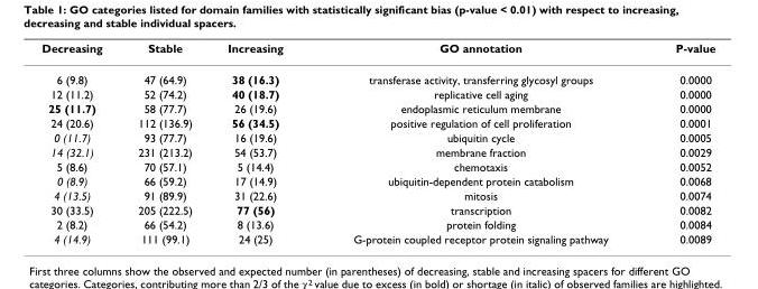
<table><thead><tr><td>Decreasing</td><td>Stable</td><td>Increasing</td><td>GO annotation</td><td>P-value</td></tr></thead><tbody><tr><td>6 (9.8)</td><td>47 (64.9)</td><td>38 (16.3)</td><td>transferase activity, transferring glycosyl groups</td><td>0.0000</td></tr><tr><td>12 (11.2)</td><td>52 (74.2)</td><td>40 (18.7)</td><td>replicative cell aging</td><td>0.0000</td></tr><tr><td>25 (11.7)</td><td>58 (77.7)</td><td>26 (19.6)</td><td>endoplasmic reticulum membrane</td><td>0.0000</td></tr><tr><td>24 (20.6)</td><td>112 (136.9)</td><td>56 (34.5)</td><td>positive regulation of cell proliferation</td><td>0.0001</td></tr><tr><td>0 (11.7)</td><td>93 (77.7)</td><td>16 (19.6)</td><td>ubiquitin cycle</td><td>0.0005</td></tr><tr><td>14 (32.1)</td><td>231 (213.2)</td><td>54 (53.7)</td><td>membrane fraction</td><td>0.0029</td></tr><tr><td>5 (8.6)</td><td>70 (57.1)</td><td>5 (14.4)</td><td>chemotaxis</td><td>0.0052</td></tr><tr><td>0 (8.9)</td><td>66 (59.2)</td><td>17 (14.9)</td><td>ubiquitin-dependent protein catabolism</td><td>0.0068</td></tr><tr><td>4 (13.5)</td><td>91 (89.9)</td><td>31 (22.6)</td><td>mitosis</td><td>0.0074</td></tr><tr><td>30 (33.5)</td><td>205 (222.5)</td><td>77 (56)</td><td>transcription</td><td>0.0082</td></tr><tr><td>2 (8.2)</td><td>66 (54.2)</td><td>8 (13.6)</td><td>protein folding</td><td>0.0084</td></tr><tr><td>4 (14.9)</td><td>111 (99.1)</td><td>24 (25)</td><td>G-protein coupled receptor protein signaling pathway</td><td>0.0089</td></tr></tbody></table>